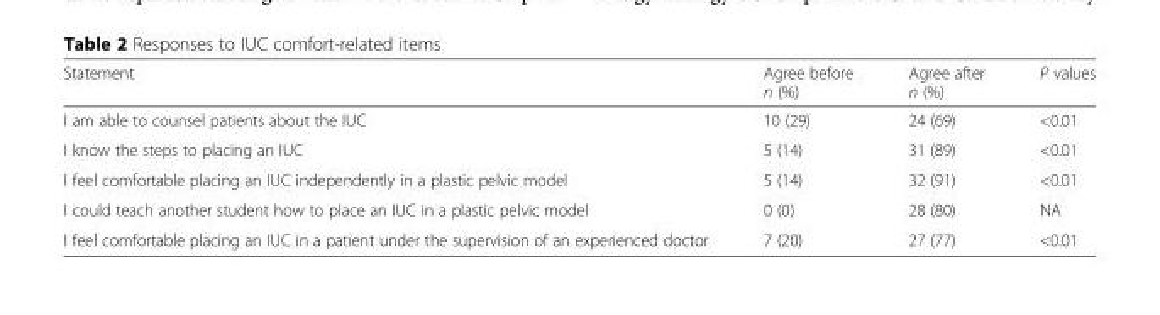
<table><thead><tr><td>Statement</td><td>Agree before n (%)</td><td>Agree after n (%)</td><td>P values</td></tr></thead><tbody><tr><td>I am able to counsel patients about the IUC</td><td>10 (29)</td><td>24 (69)</td><td>&lt;0.01</td></tr><tr><td>I know the steps to placing an IUC</td><td>5 (14)</td><td>31 (89)</td><td>&lt;0.01</td></tr><tr><td>I feel comfortable placing an IUC independently in a plastic pelvic model</td><td>5 (14)</td><td>32 (91)</td><td>&lt;0.01</td></tr><tr><td>I could teach another student how to place an IUC in a plastic pelvic model</td><td>0 (0)</td><td>28 (80)</td><td>NA</td></tr><tr><td>I feel comfortable placing an IUC in a patient under the supervision of an experienced doctor</td><td>7 (20)</td><td>27 (77)</td><td>&lt;0.01</td></tr></tbody></table>